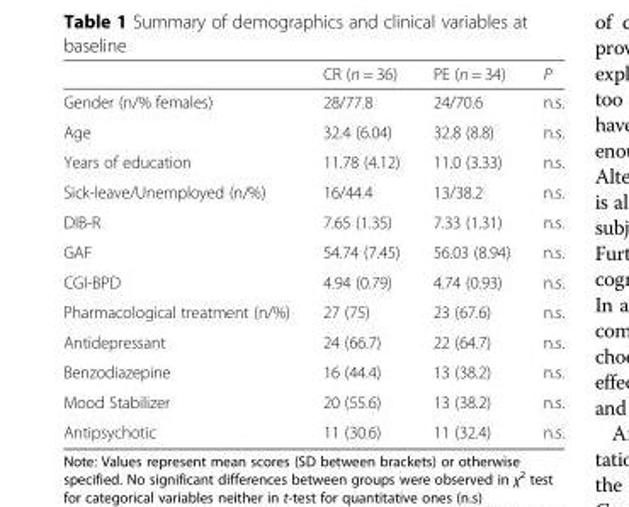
<table><thead><tr><td></td><td>CR (n = 36)</td><td>PE (n = 34)</td><td>P</td></tr></thead><tbody><tr><td>Gender (n/% females)</td><td>28/77.8</td><td>24/70.6</td><td>n.s.</td></tr><tr><td>Age</td><td>32.4 (6.04)</td><td>32.8 (8.8)</td><td>n.s.</td></tr><tr><td>Years of education</td><td>11.78 (4.12)</td><td>11.0 (3.33)</td><td>n.s.</td></tr><tr><td>Sick-leave/Unemployed (n/%)</td><td>16/44.4</td><td>13/38.2</td><td>n.s.</td></tr><tr><td>DIB-R</td><td>7.65 (1.35)</td><td>7.33 (1.31)</td><td>n.s.</td></tr><tr><td>GAF</td><td>54.74 (7.45)</td><td>56.03 (8.94)</td><td>n.s.</td></tr><tr><td>CGI-BPD</td><td>4.94 (0.79)</td><td>4.74 (0.93)</td><td>n.s.</td></tr><tr><td>Pharmacological treatment (n/%)</td><td>27 (75)</td><td>23 (67.6)</td><td>n.s.</td></tr><tr><td>Antidepressant</td><td>24 (66.7)</td><td>22 (64.7)</td><td>n.s.</td></tr><tr><td>Benzodiazepine</td><td>16 (44.4)</td><td>13 (38.2)</td><td>n.s.</td></tr><tr><td>Mood Stabilizer</td><td>20 (55.6)</td><td>13 (38.2)</td><td>n.s.</td></tr><tr><td>Antipsychotic</td><td>11 (30.6)</td><td>11 (32.4)</td><td>n.s.</td></tr></tbody></table>